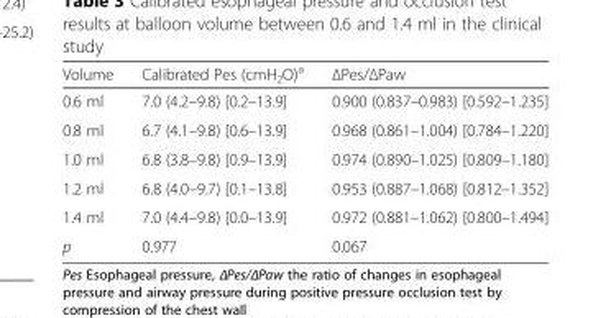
<table><thead><tr><td>Volume</td><td>Calibrated Pes (cmH<sub>2</sub>O)<sup>a</sup></td><td>ΔPes/ΔPaw</td></tr></thead><tbody><tr><td>0.6 ml</td><td>7.0 (4.2–9.8) [0.2–13.9]</td><td>0.900 (0.837–0.983) [0.592–1.235]</td></tr><tr><td>0.8 ml</td><td>6.7 (4.1–9.8) [0.6–13.9]</td><td>0.968 (0.861–1.004) [0.784–1.220]</td></tr><tr><td>1.0 ml</td><td>6.8 (3.8–9.8) [0.9–13.9]</td><td>0.974 (0.890–1.025) [0.809–1.180]</td></tr><tr><td>1.2 ml</td><td>6.8 (4.0–9.7) [0.1–13.8]</td><td>0.953 (0.887–1.068) [0.812–1.352]</td></tr><tr><td>1.4 ml</td><td>7.0 (4.4–9.8) [0.0–13.9]</td><td>0.972 (0.881–1.062) [0.800–1.494]</td></tr><tr><td>p</td><td>0.977</td><td>0.067</td></tr></tbody></table>